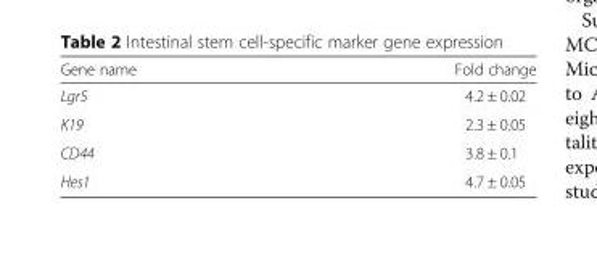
<table><thead><tr><td>Gene name</td><td>Fold change</td></tr></thead><tbody><tr><td>Lgr5</td><td>4.2 ± 0.02</td></tr><tr><td>K19</td><td>2.3 ± 0.05</td></tr><tr><td>CD44</td><td>3.8 ± 0.1</td></tr><tr><td>Hes1</td><td>4.7 ± 0.05</td></tr></tbody></table>